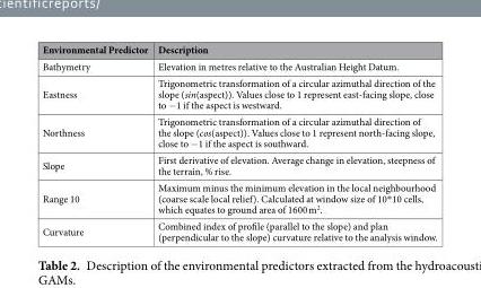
<table><thead><tr><td>Environmental Predictor</td><td>Description</td></tr></thead><tbody><tr><td>Bathymetry</td><td>Elevation in metres relative to the Australian Height Datum.</td></tr><tr><td>Eastness</td><td>Trigonometric transformation of a circular azimuthal direction of the slope (sin(aspect)). Values close to 1 represent east-facing slope, close to −1 if the aspect is westward.</td></tr><tr><td>Northness</td><td>Trigonometric transformation of a circular azimuthal direction of the slope (cos(aspect)). Values close to 1 represent north-facing slope, close to −1 if the aspect is southward.</td></tr><tr><td>Slope</td><td>First derivative of elevation. Average change in elevation, steepness of the terrain, % rise.</td></tr><tr><td>Range 10</td><td>Maximum minus the minimum elevation in the local neighbourhood (coarse scale local relief). Calculated at window size of 10*10 cells, which equates to ground area of 1600 m<sup>2</sup>.</td></tr><tr><td>Curvature</td><td>Combined index of profile (parallel to the slope) and plan (perpendicular to the slope) curvature relative to the analysis window.</td></tr></tbody></table>